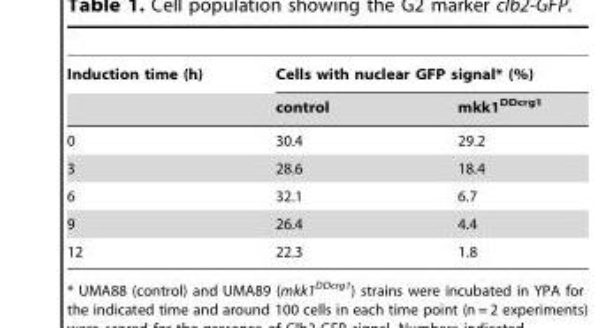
<table><thead><tr><td rowspan="2">Induction time (h)</td><td colspan="2">Cells with nuclear GFP signal* (%)</td></tr><tr><td>control</td><td>mkk1<sup>DDcrg1</sup></td></tr></thead><tbody><tr><td>0</td><td>30.4</td><td>29.2</td></tr><tr><td>3</td><td>28.6</td><td>18.4</td></tr><tr><td>6</td><td>32.1</td><td>6.7</td></tr><tr><td>9</td><td>26.4</td><td>4.4</td></tr><tr><td>12</td><td>22.3</td><td>1.8</td></tr></tbody></table>